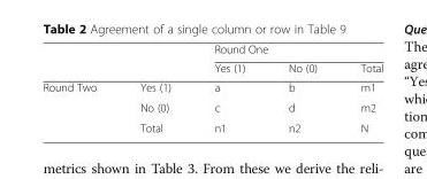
<table><thead><tr><td rowspan="2"></td><td rowspan="2"></td><td colspan="3">Round One</td></tr><tr><td>Yes (1)</td><td>No (0)</td><td>Total</td></tr></thead><tbody><tr><td rowspan="3">Round Two</td><td>Yes (1)</td><td>a</td><td>b</td><td>m1</td></tr><tr><td>No (0)</td><td>c</td><td>d</td><td>m2</td></tr><tr><td>Total</td><td>n1</td><td>n2</td><td>N</td></tr></tbody></table>